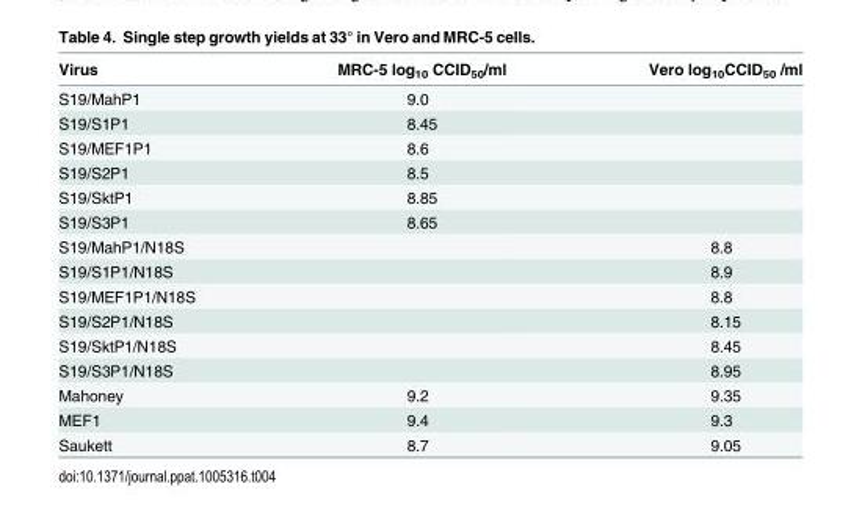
<table><thead><tr><td>Virus</td><td>MRC-5 log<sub>10</sub> CCID<sub>50</sub>/ml</td><td>Vero log<sub>10</sub>CCID<sub>50</sub> /ml</td></tr></thead><tbody><tr><td>S19/MahP1</td><td>9.0</td><td></td></tr><tr><td>S19/S1P1</td><td>8.45</td><td></td></tr><tr><td>S19/MEF1P1</td><td>8.6</td><td></td></tr><tr><td>S19/S2P1</td><td>8.5</td><td></td></tr><tr><td>S19/SktP1</td><td>8.85</td><td></td></tr><tr><td>S19/S3P1</td><td>8.65</td><td></td></tr><tr><td>S19/MahP1/N18S</td><td></td><td>8.8</td></tr><tr><td>S19/S1P1/N18S</td><td></td><td>8.9</td></tr><tr><td>S19/MEF1P1/N18S</td><td></td><td>8.8</td></tr><tr><td>S19/S2P1/N18S</td><td></td><td>8.15</td></tr><tr><td>S19/SktP1/N18S</td><td></td><td>8.45</td></tr><tr><td>S19/S3P1/N18S</td><td></td><td>8.95</td></tr><tr><td>Mahoney</td><td>9.2</td><td>9.35</td></tr><tr><td>MEF1</td><td>9.4</td><td>9.3</td></tr><tr><td>Saukett</td><td>8.7</td><td>9.05</td></tr></tbody></table>